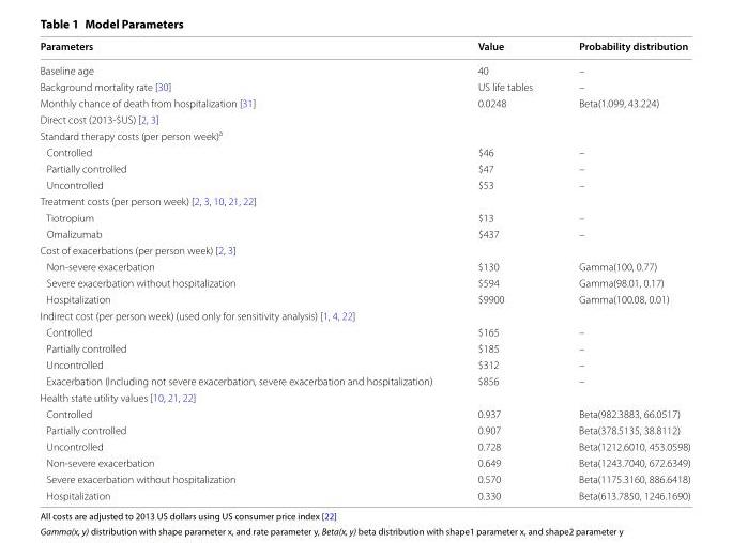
<table><thead><tr><td>Parameters</td><td>Value</td><td>Probability distribution</td></tr></thead><tbody><tr><td>Baseline age</td><td>40</td><td>–</td></tr><tr><td>Background mortality rate [30]</td><td>US life tables</td><td>–</td></tr><tr><td>Monthly chance of death from hospitalization [31]</td><td>0.0248</td><td>Beta(1.099, 43.224)</td></tr><tr><td colspan="3">Direct cost (2013-$US) [2, 3]</td></tr><tr><td colspan="3">Standard therapy costs (per person week)<sup>a</sup></td></tr><tr><td>Controlled</td><td>$46</td><td>–</td></tr><tr><td>Partially controlled</td><td>$47</td><td>–</td></tr><tr><td>Uncontrolled</td><td>$53</td><td>–</td></tr><tr><td colspan="3">Treatment costs (per person week) [2, 3, 10, 21, 22]</td></tr><tr><td>Tiotropium</td><td>$13</td><td>–</td></tr><tr><td>Omalizumab</td><td>$437</td><td>–</td></tr><tr><td colspan="3">Cost of exacerbations (per person week) [2, 3]</td></tr><tr><td>Non-severe exacerbation</td><td>$130</td><td>Gamma(100, 0.77)</td></tr><tr><td>Severe exacerbation without hospitalization</td><td>$594</td><td>Gamma(98.01, 0.17)</td></tr><tr><td>Hospitalization</td><td>$9900</td><td>Gamma(100.08, 0.01)</td></tr><tr><td colspan="3">Indirect cost (per person week) (used only for sensitivity analysis) [1, 4, 22]</td></tr><tr><td>Controlled</td><td>$165</td><td>–</td></tr><tr><td>Partially controlled</td><td>$185</td><td>–</td></tr><tr><td>Uncontrolled</td><td>$312</td><td>–</td></tr><tr><td>Exacerbation (Including not severe exacerbation, severe exacerbation and hospitalization)</td><td>$856</td><td>–</td></tr><tr><td colspan="3">Health state utility values [10, 21, 22]</td></tr><tr><td>Controlled</td><td>0.937</td><td>Beta(982.3883, 66.0517)</td></tr><tr><td>Partially controlled</td><td>0.907</td><td>Beta(378.5135, 38.8112)</td></tr><tr><td>Uncontrolled</td><td>0.728</td><td>Beta(1212.6010, 453.0598)</td></tr><tr><td>Non-severe exacerbation</td><td>0.649</td><td>Beta(1243.7040, 672.6349)</td></tr><tr><td>Severe exacerbation without hospitalization</td><td>0.570</td><td>Beta(1175.3160, 886.6418)</td></tr><tr><td>Hospitalization</td><td>0.330</td><td>Beta(613.7850, 1246.1690)</td></tr></tbody></table>